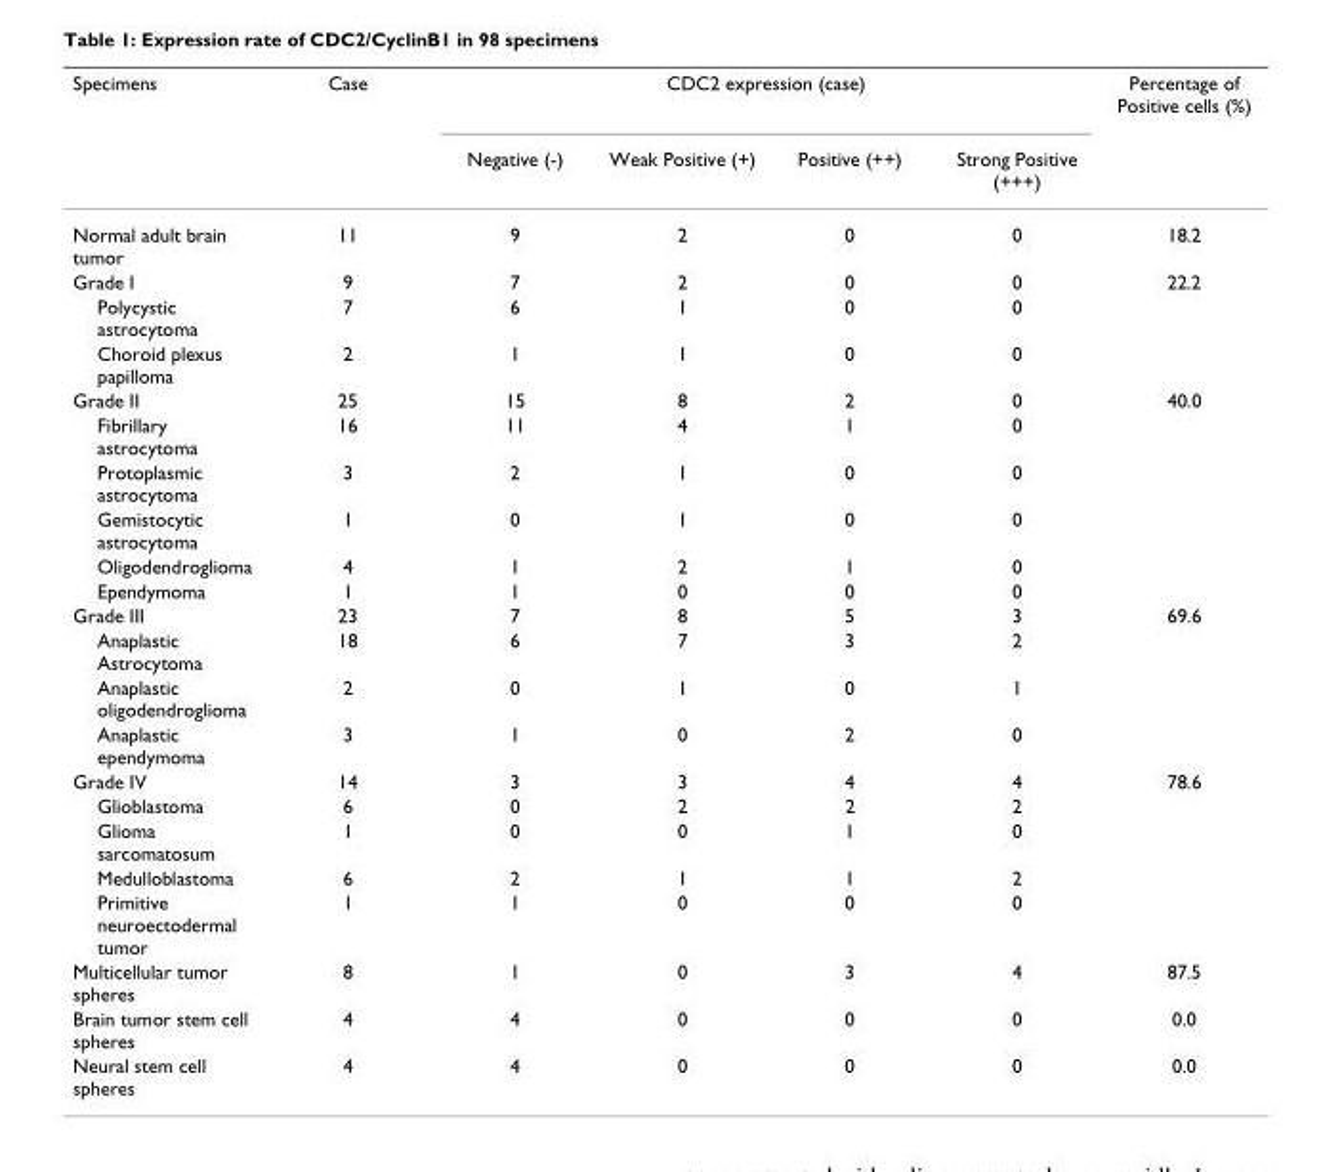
<table><thead><tr><td rowspan="2">Specimens</td><td rowspan="2">Case</td><td colspan="4">CDC2 expression (case)</td><td rowspan="2">Percentage of Positive cells (%)</td></tr><tr><td>Negative (-)</td><td>Weak Positive (+)</td><td>Positive (++)</td><td>Strong Positive (+++)</td></tr></thead><tbody><tr><td>Normal adult brain tumor</td><td>11</td><td>9</td><td>2</td><td>0</td><td>0</td><td>18.2</td></tr><tr><td>Grade I</td><td>9</td><td>7</td><td>2</td><td>0</td><td>0</td><td>22.2</td></tr><tr><td>Polycystic astrocytoma</td><td>7</td><td>6</td><td>1</td><td>0</td><td>0</td><td></td></tr><tr><td>Choroid plexus papilloma</td><td>2</td><td>1</td><td>1</td><td>0</td><td>0</td><td></td></tr><tr><td>Grade II</td><td>25</td><td>15</td><td>8</td><td>2</td><td>0</td><td>40.0</td></tr><tr><td>Fibrillary astrocytoma</td><td>16</td><td>11</td><td>4</td><td>1</td><td>0</td><td></td></tr><tr><td>Protoplasmic astrocytoma</td><td>3</td><td>2</td><td>1</td><td>0</td><td>0</td><td></td></tr><tr><td>Gemistocytic astrocytoma</td><td>1</td><td>0</td><td>1</td><td>0</td><td>0</td><td></td></tr><tr><td>Oligodendroglioma</td><td>4</td><td>1</td><td>2</td><td>1</td><td>0</td><td></td></tr><tr><td>Ependymoma</td><td>1</td><td>1</td><td>0</td><td>0</td><td>0</td><td></td></tr><tr><td>Grade III</td><td>23</td><td>7</td><td>8</td><td>5</td><td>3</td><td>69.6</td></tr><tr><td>Anaplastic Astrocytoma</td><td>18</td><td>6</td><td>7</td><td>3</td><td>2</td><td></td></tr><tr><td>Anaplastic oligodendroglioma</td><td>2</td><td>0</td><td>1</td><td>0</td><td>1</td><td></td></tr><tr><td>Anaplastic ependymoma</td><td>3</td><td>1</td><td>0</td><td>2</td><td>0</td><td></td></tr><tr><td>Grade IV</td><td>14</td><td>3</td><td>3</td><td>4</td><td>4</td><td>78.6</td></tr><tr><td>Glioblastoma</td><td>6</td><td>0</td><td>2</td><td>2</td><td>2</td><td></td></tr><tr><td>Glioma sarcomatosum</td><td>1</td><td>0</td><td>0</td><td>1</td><td>0</td><td></td></tr><tr><td>Medulloblastoma</td><td>6</td><td>2</td><td>1</td><td>1</td><td>2</td><td></td></tr><tr><td>Primitive neuroectodermal tumor</td><td>1</td><td>1</td><td>0</td><td>0</td><td>0</td><td></td></tr><tr><td>Multicellular tumor spheres</td><td>8</td><td>1</td><td>0</td><td>3</td><td>4</td><td>87.5</td></tr><tr><td>Brain tumor stem cell spheres</td><td>4</td><td>4</td><td>0</td><td>0</td><td>0</td><td>0.0</td></tr><tr><td>Neural stem cell spheres</td><td>4</td><td>4</td><td>0</td><td>0</td><td>0</td><td>0.0</td></tr></tbody></table>